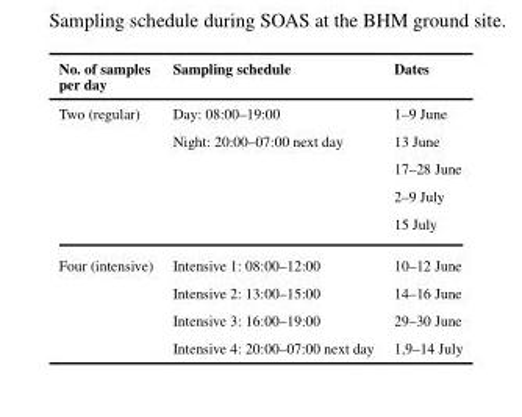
<table><thead><tr><td>No. of samples per day</td><td>Sampling schedule</td><td>Dates</td></tr></thead><tbody><tr><td rowspan="5">Two (regular)</td><td>Day: 08:00–19:00</td><td>1–9 June</td></tr><tr><td>Night: 20:00–07:00 next day</td><td>13 June</td></tr><tr><td></td><td>17–28 June</td></tr><tr><td></td><td>2–9 July</td></tr><tr><td></td><td>15 July</td></tr><tr><td rowspan="4">Four (intensive)</td><td>Intensive 1: 08:00–12:00</td><td>10–12 June</td></tr><tr><td>Intensive 2: 13:00–15:00</td><td>14–16 June</td></tr><tr><td>Intensive 3: 16:00–19:00</td><td>29–30 June</td></tr><tr><td>Intensive 4: 20:00–07:00 next day</td><td>1,9–14 July</td></tr></tbody></table>